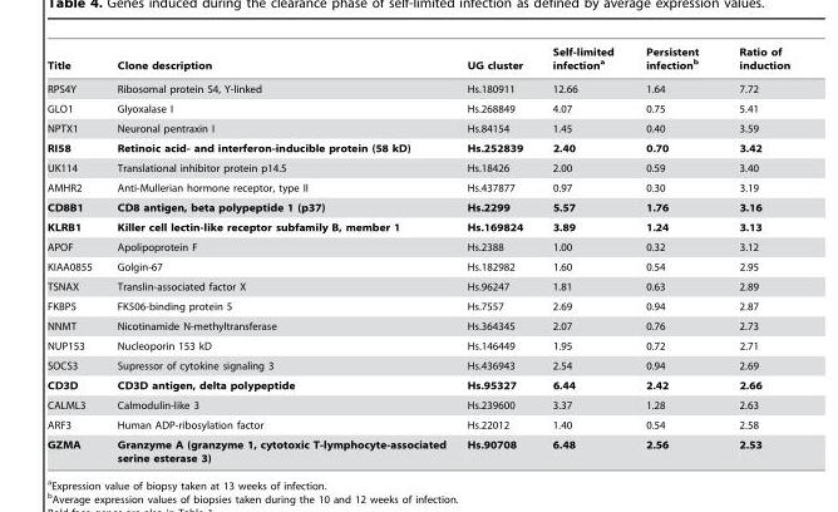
<table><thead><tr><td>Title</td><td>Clone description</td><td>UG cluster</td><td>Self-limited infection<sup>a</sup></td><td>Persistent infection<sup>b</sup></td><td>Ratio of induction</td></tr></thead><tbody><tr><td>RPS4Y</td><td>Ribosomal protein S4, Y-linked</td><td>Hs.180911</td><td>12.66</td><td>1.64</td><td>7.72</td></tr><tr><td>GLO1</td><td>Glyoxalase I</td><td>Hs.268849</td><td>4.07</td><td>0.75</td><td>5.41</td></tr><tr><td>NPTX1</td><td>Neuronal pentraxin I</td><td>Hs.84154</td><td>1.45</td><td>0.40</td><td>3.59</td></tr><tr><td>RI58</td><td>Retinoic acid- and interferon-inducible protein (58 kD)</td><td>Hs.252839</td><td>2.40</td><td>0.70</td><td>3.42</td></tr><tr><td>UK114</td><td>Translational inhibitor protein p14.5</td><td>Hs.18426</td><td>2.00</td><td>0.59</td><td>3.40</td></tr><tr><td>AMHR2</td><td>Anti-Mullerian hormone receptor, type II</td><td>Hs.437877</td><td>0.97</td><td>0.30</td><td>3.19</td></tr><tr><td>CD8B1</td><td>CD8 antigen, beta polypeptide 1 (p37)</td><td>Hs.2299</td><td>5.57</td><td>1.76</td><td>3.16</td></tr><tr><td>KLRB1</td><td>Killer cell lectin-like receptor subfamily B, member 1</td><td>Hs.169824</td><td>3.89</td><td>1.24</td><td>3.13</td></tr><tr><td>APOF</td><td>Apolipoprotein F</td><td>Hs.2388</td><td>1.00</td><td>0.32</td><td>3.12</td></tr><tr><td>KIAA0855</td><td>Golgin-67</td><td>Hs.182982</td><td>1.60</td><td>0.54</td><td>2.95</td></tr><tr><td>TSNAX</td><td>Translin-associated factor X</td><td>Hs.96247</td><td>1.81</td><td>0.63</td><td>2.89</td></tr><tr><td>FKBP5</td><td>FK506-binding protein 5</td><td>Hs.7557</td><td>2.69</td><td>0.94</td><td>2.87</td></tr><tr><td>NNMT</td><td>Nicotinamide N-methyltransferase</td><td>Hs.364345</td><td>2.07</td><td>0.76</td><td>2.73</td></tr><tr><td>NUP153</td><td>Nucleoporin 153 kD</td><td>Hs.146449</td><td>1.95</td><td>0.72</td><td>2.71</td></tr><tr><td>SOCS3</td><td>Supressor of cytokine signaling 3</td><td>Hs.436943</td><td>2.54</td><td>0.94</td><td>2.69</td></tr><tr><td>CD3D</td><td>CD3D antigen, delta polypeptide</td><td>Hs.95327</td><td>6.44</td><td>2.42</td><td>2.66</td></tr><tr><td>CALML3</td><td>Calmodulin-like 3</td><td>Hs.239600</td><td>3.37</td><td>1.28</td><td>2.63</td></tr><tr><td>ARF3</td><td>Human ADP-ribosylation factor</td><td>Hs.22012</td><td>1.40</td><td>0.54</td><td>2.58</td></tr><tr><td>GZMA</td><td>Granzyme A (granzyme 1, cytotoxic T-lymphocyte-associated serine esterase 3)</td><td>Hs.90708</td><td>6.48</td><td>2.56</td><td>2.53</td></tr></tbody></table>